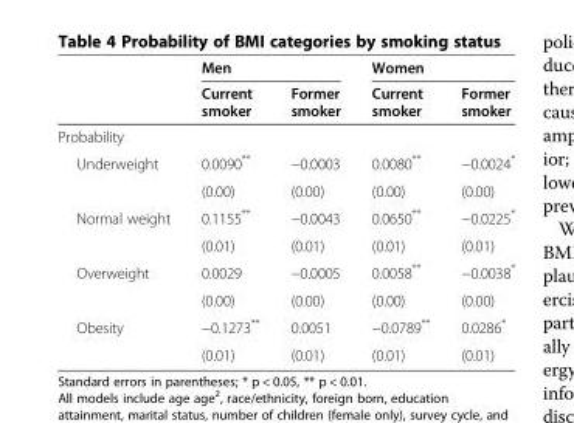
<table><thead><tr><td rowspan="2"></td><td colspan="2">Men</td><td colspan="2">Women</td></tr><tr><td>Current smoker</td><td>Former smoker</td><td>Current smoker</td><td>Former smoker</td></tr></thead><tbody><tr><td colspan="5">Probability</td></tr><tr><td rowspan="2">Underweight</td><td>0.0090**</td><td>−0.0003</td><td>0.0080**</td><td>−0.0024*</td></tr><tr><td>(0.00)</td><td>(0.00)</td><td>(0.00)</td><td>(0.00)</td></tr><tr><td rowspan="2">Normal weight</td><td>0.1155**</td><td>−0.0043</td><td>0.0650**</td><td>−0.0225*</td></tr><tr><td>(0.01)</td><td>(0.01)</td><td>(0.01)</td><td>(0.01)</td></tr><tr><td rowspan="2">Overweight</td><td>0.0029</td><td>−0.0005</td><td>0.0058**</td><td>−0.0038*</td></tr><tr><td>(0.00)</td><td>(0.00)</td><td>(0.00)</td><td>(0.00)</td></tr><tr><td rowspan="2">Obesity</td><td>−0.1273**</td><td>0.0051</td><td>−0.0789**</td><td>0.0286*</td></tr><tr><td>(0.01)</td><td>(0.01)</td><td>(0.01)</td><td>(0.01)</td></tr></tbody></table>